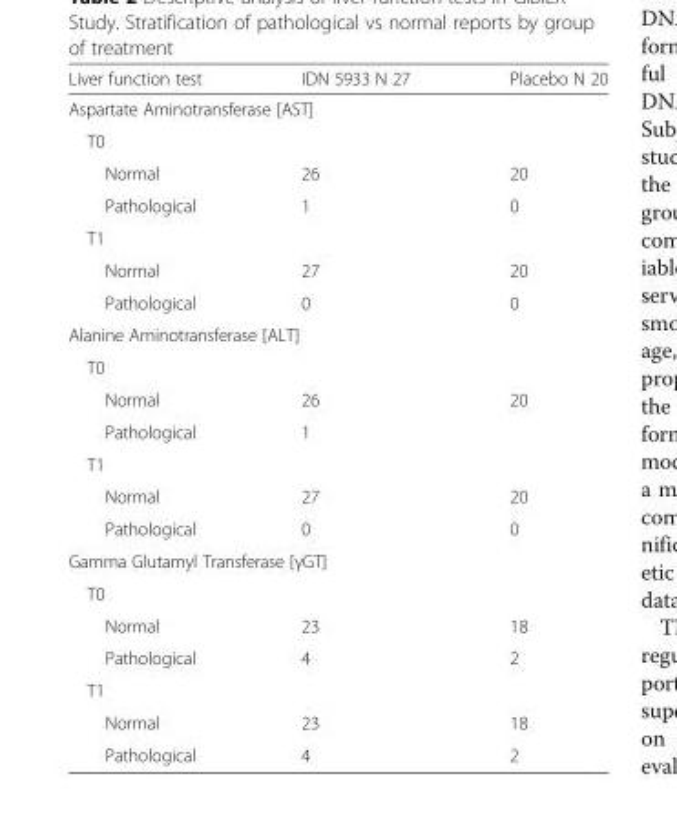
<table><thead><tr><td>Liver function test</td><td>IDN 5933 N 27</td><td>Placebo N 20</td></tr></thead><tbody><tr><td colspan="3">Aspartate Aminotransferase [AST]</td></tr><tr><td colspan="3">T0</td></tr><tr><td>Normal</td><td>26</td><td>20</td></tr><tr><td>Pathological</td><td>1</td><td>0</td></tr><tr><td colspan="3">T1</td></tr><tr><td>Normal</td><td>27</td><td>20</td></tr><tr><td>Pathological</td><td>0</td><td>0</td></tr><tr><td colspan="3">Alanine Aminotransferase [ALT]</td></tr><tr><td colspan="3">T0</td></tr><tr><td>Normal</td><td>26</td><td>20</td></tr><tr><td>Pathological</td><td>1</td><td></td></tr><tr><td colspan="3">T1</td></tr><tr><td>Normal</td><td>27</td><td>20</td></tr><tr><td>Pathological</td><td>0</td><td>0</td></tr><tr><td colspan="3">Gamma Glutamyl Transferase [γGT]</td></tr><tr><td colspan="3">T0</td></tr><tr><td>Normal</td><td>23</td><td>18</td></tr><tr><td>Pathological</td><td>4</td><td>2</td></tr><tr><td colspan="3">T1</td></tr><tr><td>Normal</td><td>23</td><td>18</td></tr><tr><td>Pathological</td><td>4</td><td>2</td></tr></tbody></table>